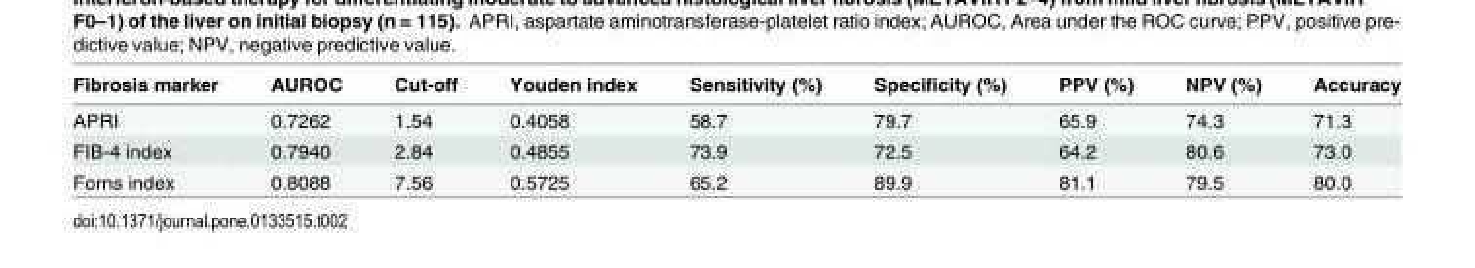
<table><thead><tr><td>Fibrosis marker</td><td>AUROC</td><td>Cut-off</td><td>Youden index</td><td>Sensitivity (%)</td><td>Specificity (%)</td><td>PPV (%)</td><td>NPV (%)</td><td>Accuracy</td></tr></thead><tbody><tr><td>APRI</td><td>0.7262</td><td>1.54</td><td>0.4058</td><td>58.7</td><td>79.7</td><td>65.9</td><td>74.3</td><td>71.3</td></tr><tr><td>FIB-4 index</td><td>0.7940</td><td>2.84</td><td>0.4855</td><td>73.9</td><td>72.5</td><td>64.2</td><td>80.6</td><td>73.0</td></tr><tr><td>Forns index</td><td>0.8088</td><td>7.56</td><td>0.5725</td><td>65.2</td><td>89.9</td><td>81.1</td><td>79.5</td><td>80.0</td></tr></tbody></table>